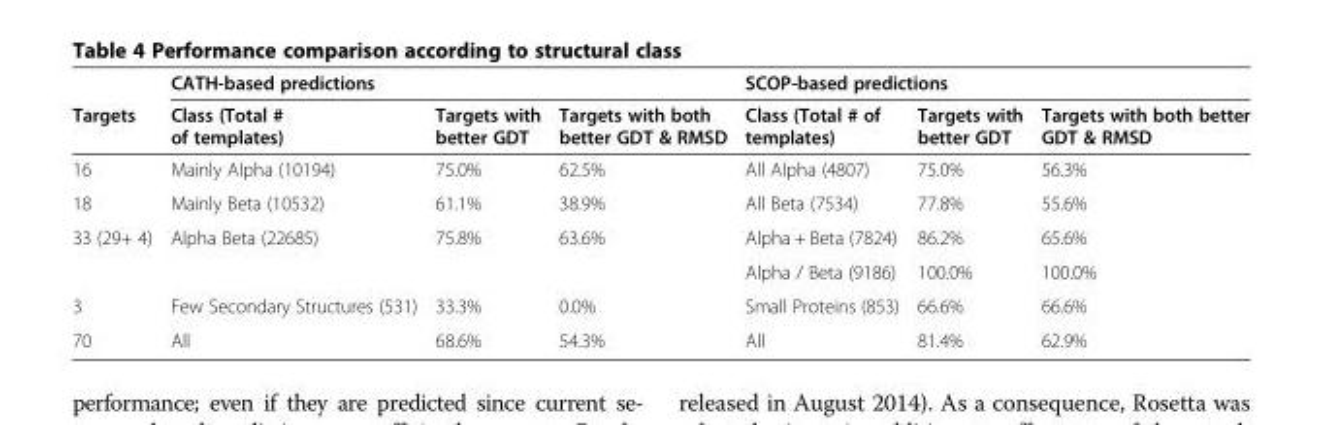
<table><thead><tr><td rowspan="2">Targets</td><td colspan="3">CATH-based predictions</td><td colspan="3">SCOP-based predictions</td></tr><tr><td>Class (Total # of templates)</td><td>Targets with better GDT</td><td>Targets with both better GDT &amp; RMSD</td><td>Class (Total # of templates)</td><td>Targets with better GDT</td><td>Targets with both better GDT &amp; RMSD</td></tr></thead><tbody><tr><td>16</td><td>Mainly Alpha (10194)</td><td>75.0%</td><td>62.5%</td><td>All Alpha (4807)</td><td>75.0%</td><td>56.3%</td></tr><tr><td>18</td><td>Mainly Beta (10532)</td><td>61.1%</td><td>38.9%</td><td>All Beta (7534)</td><td>77.8%</td><td>55.6%</td></tr><tr><td rowspan="2">33 (29+ 4)</td><td rowspan="2">Alpha Beta (22685)</td><td rowspan="2">75.8%</td><td rowspan="2">63.6%</td><td>Alpha + Beta (7824)</td><td>86.2%</td><td>65.6%</td></tr><tr><td>Alpha / Beta (9186)</td><td>100.0%</td><td>100.0%</td></tr><tr><td>3</td><td>Few Secondary Structures (531)</td><td>33.3%</td><td>0.0%</td><td>Small Proteins (853)</td><td>66.6%</td><td>66.6%</td></tr><tr><td>70</td><td>All</td><td>68.6%</td><td>54.3%</td><td>All</td><td>81.4%</td><td>62.9%</td></tr></tbody></table>